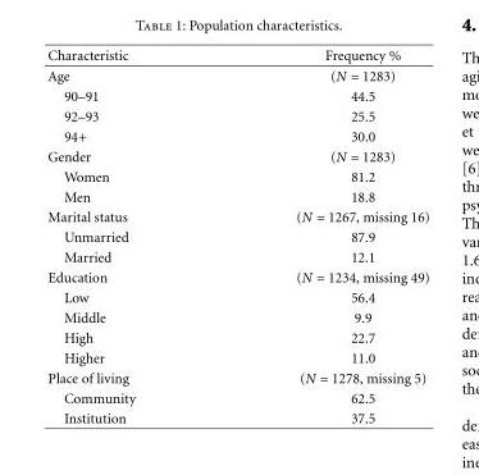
<table><thead><tr><td>Characteristic</td><td>Frequency %</td></tr></thead><tbody><tr><td>Age</td><td>(N = 1283)</td></tr><tr><td>90–91</td><td>44.5</td></tr><tr><td>92–93</td><td>25.5</td></tr><tr><td>94+</td><td>30.0</td></tr><tr><td>Gender</td><td>(N = 1283)</td></tr><tr><td>Women</td><td>81.2</td></tr><tr><td>Men</td><td>18.8</td></tr><tr><td>Marital status</td><td>(N = 1267, missing 16)</td></tr><tr><td>Unmarried</td><td>87.9</td></tr><tr><td>Married</td><td>12.1</td></tr><tr><td>Education</td><td>(N = 1234, missing 49)</td></tr><tr><td>Low</td><td>56.4</td></tr><tr><td>Middle</td><td>9.9</td></tr><tr><td>High</td><td>22.7</td></tr><tr><td>Higher</td><td>11.0</td></tr><tr><td>Place of living</td><td>(N = 1278, missing 5)</td></tr><tr><td>Community</td><td>62.5</td></tr><tr><td>Institution</td><td>37.5</td></tr></tbody></table>